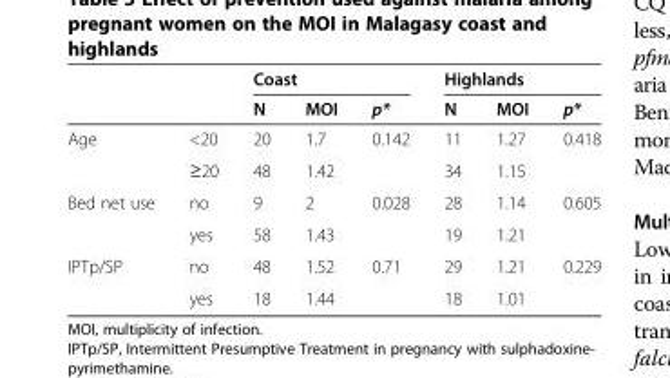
<table><thead><tr><td rowspan="2"></td><td rowspan="2"></td><td colspan="3">Coast</td><td colspan="3">Highlands</td></tr><tr><td>N</td><td>MOI</td><td>p*</td><td>N</td><td>MOI</td><td>p*</td></tr></thead><tbody><tr><td rowspan="2">Age</td><td>&lt;20</td><td>20</td><td>1.7</td><td rowspan="2">0.142</td><td>11</td><td>1.27</td><td rowspan="2">0.418</td></tr><tr><td>≥20</td><td>48</td><td>1.42</td><td>34</td><td>1.15</td></tr><tr><td rowspan="2">Bed net use</td><td>no</td><td>9</td><td>2</td><td rowspan="2">0.028</td><td>28</td><td>1.14</td><td rowspan="2">0.605</td></tr><tr><td>yes</td><td>58</td><td>1.43</td><td>19</td><td>1.21</td></tr><tr><td rowspan="2">IPTp/SP</td><td>no</td><td>48</td><td>1.52</td><td rowspan="2">0.71</td><td>29</td><td>1.21</td><td rowspan="2">0.229</td></tr><tr><td>yes</td><td>18</td><td>1.44</td><td>18</td><td>1.01</td></tr></tbody></table>